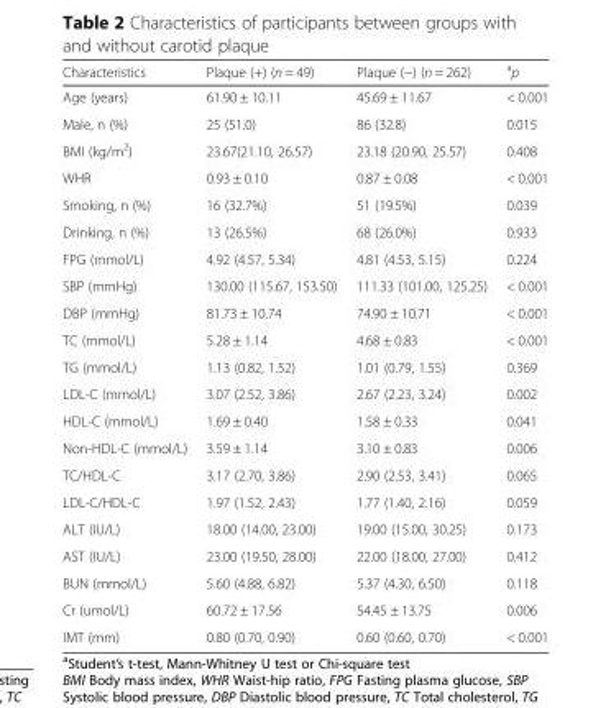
<table><thead><tr><td>Characteristics</td><td>Plaque (+) (n = 49)</td><td>Plaque (−) (n = 262)</td><td><sup>a</sup>p</td></tr></thead><tbody><tr><td>Age (years)</td><td>61.90 ± 10.11</td><td>45.69 ± 11.67</td><td>&lt; 0.001</td></tr><tr><td>Male, n (%)</td><td>25 (51.0)</td><td>86 (32.8)</td><td>0.015</td></tr><tr><td>BMI (kg/m<sup>2</sup>)</td><td>23.67(21.10, 26.57)</td><td>23.18 (20.90, 25.57)</td><td>0.408</td></tr><tr><td>WHR</td><td>0.93 ± 0.10</td><td>0.87 ± 0.08</td><td>&lt; 0.001</td></tr><tr><td>Smoking, n (%)</td><td>16 (32.7%)</td><td>51 (19.5%)</td><td>0.039</td></tr><tr><td>Drinking, n (%)</td><td>13 (26.5%)</td><td>68 (26.0%)</td><td>0.933</td></tr><tr><td>FPG (mmol/L)</td><td>4.92 (4.57, 5.34)</td><td>4.81 (4.53, 5.15)</td><td>0.224</td></tr><tr><td>SBP (mmHg)</td><td>130.00 (115.67, 153.50)</td><td>111.33 (101.00, 125.25)</td><td>&lt; 0.001</td></tr><tr><td>DBP (mmHg)</td><td>81.73 ± 10.74</td><td>74.90 ± 10.71</td><td>&lt; 0.001</td></tr><tr><td>TC (mmol/L)</td><td>5.28 ± 1.14</td><td>4.68 ± 0.83</td><td>&lt; 0.001</td></tr><tr><td>TG (mmol/L)</td><td>1.13 (0.82, 1.52)</td><td>1.01 (0.79, 1.55)</td><td>0.369</td></tr><tr><td>LDL-C (mmol/L)</td><td>3.07 (2.52, 3.86)</td><td>2.67 (2.23, 3.24)</td><td>0.002</td></tr><tr><td>HDL-C (mmol/L)</td><td>1.69 ± 0.40</td><td>1.58 ± 0.33</td><td>0.041</td></tr><tr><td>Non-HDL-C (mmol/L)</td><td>3.59 ± 1.14</td><td>3.10 ± 0.83</td><td>0.006</td></tr><tr><td>TC/HDL-C</td><td>3.17 (2.70, 3.86)</td><td>2.90 (2.53, 3.41)</td><td>0.065</td></tr><tr><td>LDL-C/HDL-C</td><td>1.97 (1.52, 2.43)</td><td>1.77 (1.40, 2.16)</td><td>0.059</td></tr><tr><td>ALT (IU/L)</td><td>18.00 (14.00, 23.00)</td><td>19.00 (15.00, 30.25)</td><td>0.173</td></tr><tr><td>AST (IU/L)</td><td>23.00 (19.50, 28.00)</td><td>22.00 (18.00, 27.00)</td><td>0.412</td></tr><tr><td>BUN (mmol/L)</td><td>5.60 (4.88, 6.82)</td><td>5.37 (4.30, 6.50)</td><td>0.118</td></tr><tr><td>Cr (umol/L)</td><td>60.72 ± 17.56</td><td>54.45 ± 13.75</td><td>0.006</td></tr><tr><td>IMT (mm)</td><td>0.80 (0.70, 0.90)</td><td>0.60 (0.60, 0.70)</td><td>&lt; 0.001</td></tr></tbody></table>